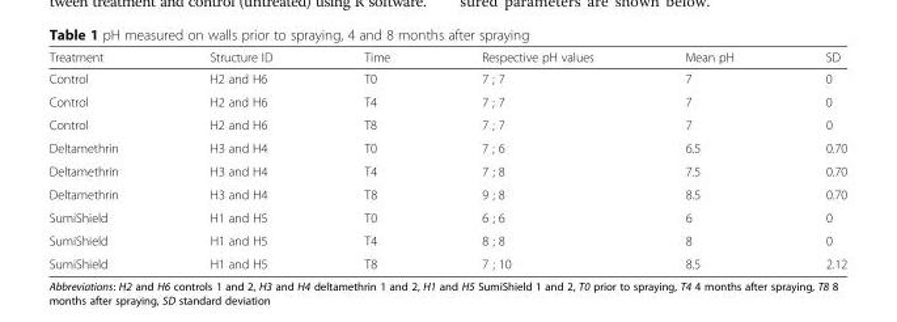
<table><thead><tr><td>Treatment</td><td>Structure ID</td><td>Time</td><td>Respective pH values</td><td>Mean pH</td><td>SD</td></tr></thead><tbody><tr><td>Control</td><td>H2 and H6</td><td>T0</td><td>7 ; 7</td><td>7</td><td>0</td></tr><tr><td>Control</td><td>H2 and H6</td><td>T4</td><td>7 ; 7</td><td>7</td><td>0</td></tr><tr><td>Control</td><td>H2 and H6</td><td>T8</td><td>7 ; 7</td><td>7</td><td>0</td></tr><tr><td>Deltamethrin</td><td>H3 and H4</td><td>T0</td><td>7 ; 6</td><td>6.5</td><td>0.70</td></tr><tr><td>Deltamethrin</td><td>H3 and H4</td><td>T4</td><td>7 ; 8</td><td>7.5</td><td>0.70</td></tr><tr><td>Deltamethrin</td><td>H3 and H4</td><td>T8</td><td>9 ; 8</td><td>8.5</td><td>0.70</td></tr><tr><td>SumiShield</td><td>H1 and H5</td><td>T0</td><td>6 ; 6</td><td>6</td><td>0</td></tr><tr><td>SumiShield</td><td>H1 and H5</td><td>T4</td><td>8 ; 8</td><td>8</td><td>0</td></tr><tr><td>SumiShield</td><td>H1 and H5</td><td>T8</td><td>7 ; 10</td><td>8.5</td><td>2.12</td></tr></tbody></table>